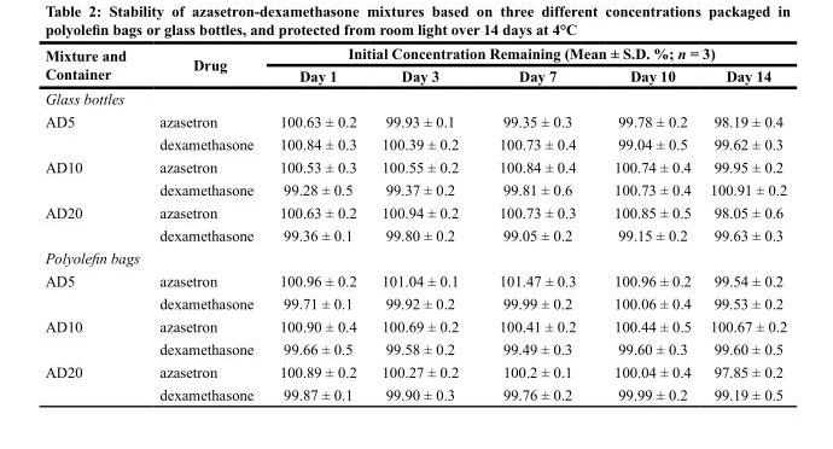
<table><thead><tr><td rowspan="2">Mixture and Container</td><td rowspan="2">Drug</td><td colspan="5">Initial Concentration Remaining (Mean ± S.D. %; n = 3)</td></tr><tr><td>Day 1</td><td>Day 3</td><td>Day 7</td><td>Day 10</td><td>Day 14</td></tr></thead><tbody><tr><td colspan="7">Glass bottles</td></tr><tr><td rowspan="2">AD5</td><td>azasetron</td><td>100.63 ± 0.2</td><td>99.93 ± 0.1</td><td>99.35 ± 0.3</td><td>99.78 ± 0.2</td><td>98.19 ± 0.4</td></tr><tr><td>dexamethasone</td><td>100.84 ± 0.3</td><td>100.39 ± 0.2</td><td>100.73 ± 0.4</td><td>99.04 ± 0.5</td><td>99.62 ± 0.3</td></tr><tr><td rowspan="2">AD10</td><td>azasetron</td><td>100.53 ± 0.3</td><td>100.55 ± 0.2</td><td>100.84 ± 0.4</td><td>100.74 ± 0.4</td><td>99.95 ± 0.2</td></tr><tr><td>dexamethasone</td><td>99.28 ± 0.5</td><td>99.37 ± 0.2</td><td>99.81 ± 0.6</td><td>100.73 ± 0.4</td><td>100.91 ± 0.2</td></tr><tr><td rowspan="2">AD20</td><td>azasetron</td><td>100.63 ± 0.2</td><td>100.94 ± 0.2</td><td>100.73 ± 0.3</td><td>100.85 ± 0.5</td><td>98.05 ± 0.6</td></tr><tr><td>dexamethasone</td><td>99.36 ± 0.1</td><td>99.80 ± 0.2</td><td>99.05 ± 0.2</td><td>99.15 ± 0.2</td><td>99.63 ± 0.3</td></tr><tr><td colspan="7">Polyolefin bags</td></tr><tr><td rowspan="2">AD5</td><td>azasetron</td><td>100.96 ± 0.2</td><td>101.04 ± 0.1</td><td>101.47 ± 0.3</td><td>100.96 ± 0.2</td><td>99.54 ± 0.2</td></tr><tr><td>dexamethasone</td><td>99.71 ± 0.1</td><td>99.92 ± 0.2</td><td>99.99 ± 0.2</td><td>100.06 ± 0.4</td><td>99.53 ± 0.2</td></tr><tr><td rowspan="2">AD10</td><td>azasetron</td><td>100.90 ± 0.4</td><td>100.69 ± 0.2</td><td>100.41 ± 0.2</td><td>100.44 ± 0.5</td><td>100.67 ± 0.2</td></tr><tr><td>dexamethasone</td><td>99.66 ± 0.5</td><td>99.58 ± 0.2</td><td>99.49 ± 0.3</td><td>99.60 ± 0.3</td><td>99.60 ± 0.5</td></tr><tr><td rowspan="2">AD20</td><td>azasetron</td><td>100.89 ± 0.2</td><td>100.27 ± 0.2</td><td>100.2 ± 0.1</td><td>100.04 ± 0.4</td><td>97.85 ± 0.2</td></tr><tr><td>dexamethasone</td><td>99.87 ± 0.1</td><td>99.90 ± 0.3</td><td>99.76 ± 0.2</td><td>99.99 ± 0.2</td><td>99.19 ± 0.5</td></tr></tbody></table>